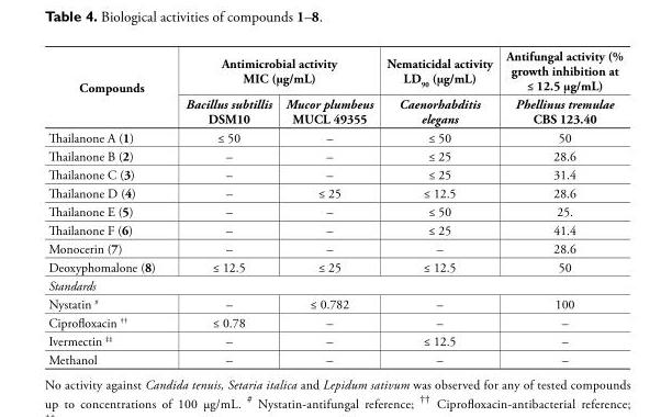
<table><thead><tr><td rowspan="2">Compounds</td><td colspan="2">Antimicrobial activity MIC (µg/mL)</td><td rowspan="2">Nematicidal activity LD<sub>90</sub> (µg/mL) Caenorhabditis elegans</td><td rowspan="2">Antifungal activity (% growth inhibition at ≤ 12.5 µg/mL) Phellinus tremulae CBS 123.40</td></tr><tr><td>Bacillus subtillis DSM10</td><td>Mucor plumbeus MUCL 49355</td></tr></thead><tbody><tr><td>Thailanone A (1)</td><td>≤ 50</td><td>–</td><td>≤ 50</td><td>50</td></tr><tr><td>Thailanone B (2)</td><td>–</td><td>–</td><td>≤ 25</td><td>28.6</td></tr><tr><td>Thailanone C (3)</td><td>–</td><td>–</td><td>≤ 25</td><td>31.4</td></tr><tr><td>Thailanone D (4)</td><td>–</td><td>≤ 25</td><td>≤ 12.5</td><td>28.6</td></tr><tr><td>Thailanone E (5)</td><td>–</td><td>–</td><td>≤ 50</td><td>25.</td></tr><tr><td>Thailanone F (6)</td><td>–</td><td>–</td><td>≤ 25</td><td>41.4</td></tr><tr><td>Monocerin (7)</td><td>–</td><td>–</td><td>–</td><td>28.6</td></tr><tr><td>Deoxyphomalone (8)</td><td>≤ 12.5</td><td>≤ 25</td><td>≤ 12.5</td><td>50</td></tr><tr><td colspan="5">Standards</td></tr><tr><td>Nystatin <sup>#</sup></td><td>–</td><td>≤ 0.782</td><td>–</td><td>100</td></tr><tr><td>Ciprofloxacin <sup>††</sup></td><td>≤ 0.78</td><td>–</td><td>–</td><td>–</td></tr><tr><td>Ivermectin <sup>‡‡</sup></td><td>–</td><td>–</td><td>≤ 12.5</td><td>–</td></tr><tr><td>Methanol</td><td>–</td><td>–</td><td>–</td><td>–</td></tr></tbody></table>